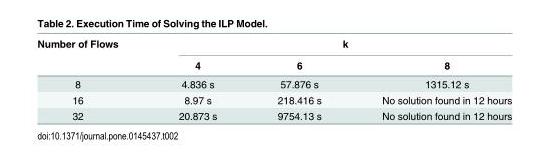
<table><thead><tr><td rowspan="2">Number of Flows</td><td colspan="3">k</td></tr><tr><td>4</td><td>6</td><td>8</td></tr></thead><tbody><tr><td>8</td><td>4.836 s</td><td>57.876 s</td><td>1315.12 s</td></tr><tr><td>16</td><td>8.97 s</td><td>218.416 s</td><td>No solution found in 12 hours</td></tr><tr><td>32</td><td>20.873 s</td><td>9754.13 s</td><td>No solution found in 12 hours</td></tr></tbody></table>